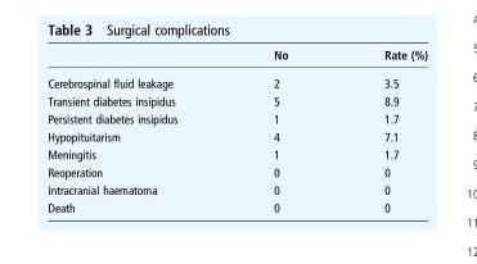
<table><thead><tr><td></td><td>No</td><td>Rate (%)</td></tr></thead><tbody><tr><td>Cerebrospinal fluid leakage</td><td>2</td><td>3.5</td></tr><tr><td>Transient diabetes insipidus</td><td>5</td><td>8.9</td></tr><tr><td>Persistent diabetes insipidus</td><td>1</td><td>1.7</td></tr><tr><td>Hypopituitarism</td><td>4</td><td>7.1</td></tr><tr><td>Meningitis</td><td>1</td><td>1.7</td></tr><tr><td>Reoperation</td><td>0</td><td>0</td></tr><tr><td>Intracranial haematoma</td><td>0</td><td>0</td></tr><tr><td>Death</td><td>0</td><td>0</td></tr></tbody></table>